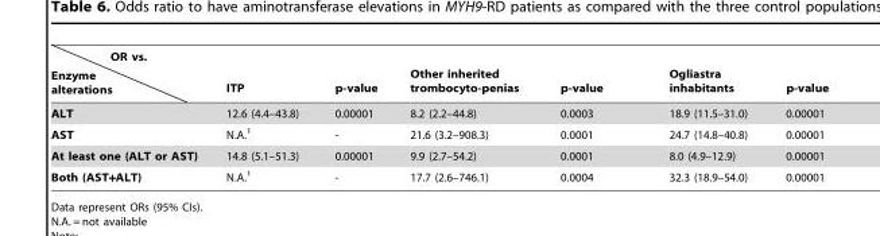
<table><thead><tr><td>OR vs. Enzyme alterations</td><td>ITP</td><td>p-value</td><td>Other inherited trombocyto-penias</td><td>p-value</td><td>Ogliastra inhabitants</td><td>p-value</td></tr></thead><tbody><tr><td>ALT</td><td>12.6 (4.4–43.8)</td><td>0.00001</td><td>8.2 (2.2–44.8)</td><td>0.0003</td><td>18.9 (11.5–31.0)</td><td>0.00001</td></tr><tr><td>AST</td><td>N.A.<sup>1</sup></td><td>-</td><td>21.6 (3.2–908.3)</td><td>0.0001</td><td>24.7 (14.8–40.8)</td><td>0.00001</td></tr><tr><td>At least one (ALT or AST)</td><td>14.8 (5.1–51.3)</td><td>0.00001</td><td>9.9 (2.7–54.2)</td><td>0.0001</td><td>8.0 (4.9–12.9)</td><td>0.00001</td></tr><tr><td>Both (AST+ALT)</td><td>N.A.<sup>1</sup></td><td>-</td><td>17.7 (2.6–746.1)</td><td>0.0004</td><td>32.3 (18.9–54.0)</td><td>0.00001</td></tr></tbody></table>